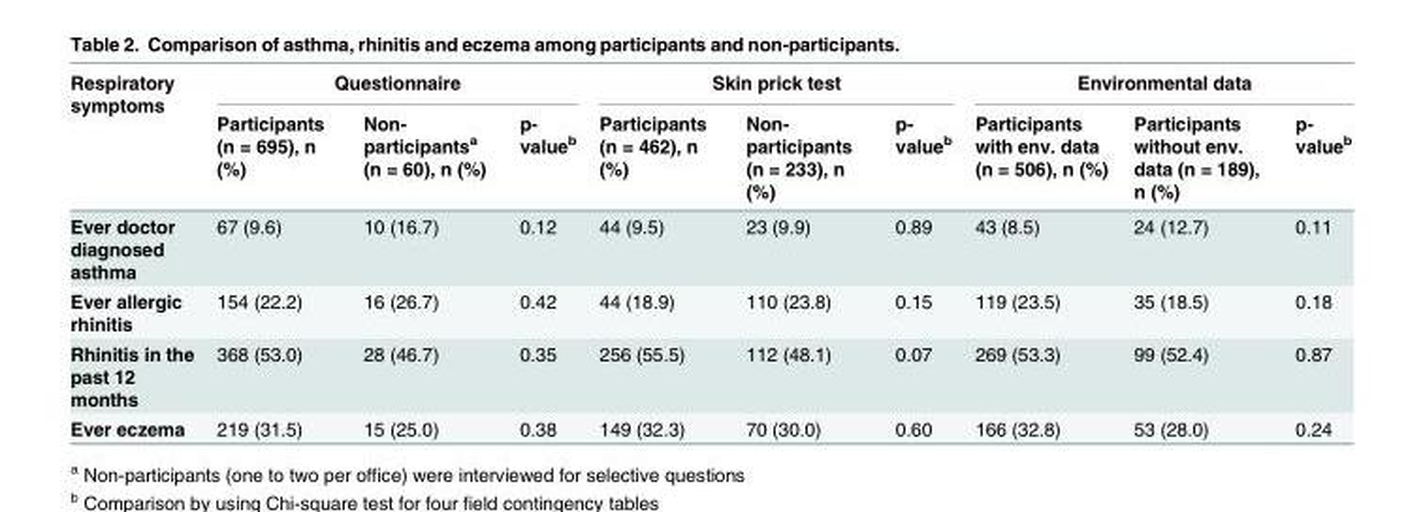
<table><thead><tr><td rowspan="2">Respiratory symptoms</td><td colspan="3">Questionnaire</td><td colspan="3">Skin prick test</td><td colspan="3">Environmental data</td></tr><tr><td>Participants (n = 695), n (%)</td><td>Non- participants<sup>a</sup> (n = 60), n (%)</td><td>p- value<sup>b</sup></td><td>Participants (n = 462), n (%)</td><td>Non- participants (n = 233), n (%)</td><td>p- value<sup>b</sup></td><td>Participants with env. data (n = 506), n (%)</td><td>Participants without env. data (n = 189), n (%)</td><td>p- value<sup>b</sup></td></tr></thead><tbody><tr><td>Ever doctor diagnosed asthma</td><td>67 (9.6)</td><td>10 (16.7)</td><td>0.12</td><td>44 (9.5)</td><td>23 (9.9)</td><td>0.89</td><td>43 (8.5)</td><td>24 (12.7)</td><td>0.11</td></tr><tr><td>Ever allergic rhinitis</td><td>154 (22.2)</td><td>16 (26.7)</td><td>0.42</td><td>44 (18.9)</td><td>110 (23.8)</td><td>0.15</td><td>119 (23.5)</td><td>35 (18.5)</td><td>0.18</td></tr><tr><td>Rhinitis in the past 12 months</td><td>368 (53.0)</td><td>28 (46.7)</td><td>0.35</td><td>256 (55.5)</td><td>112 (48.1)</td><td>0.07</td><td>269 (53.3)</td><td>99 (52.4)</td><td>0.87</td></tr><tr><td>Ever eczema</td><td>219 (31.5)</td><td>15 (25.0)</td><td>0.38</td><td>149 (32.3)</td><td>70 (30.0)</td><td>0.60</td><td>166 (32.8)</td><td>53 (28.0)</td><td>0.24</td></tr></tbody></table>